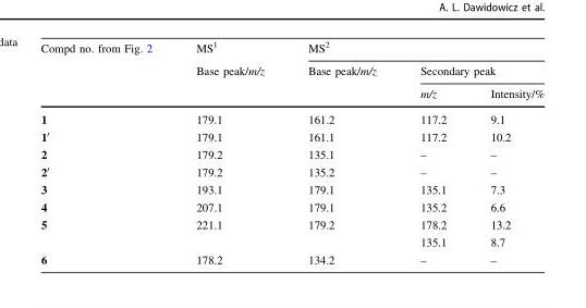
<table><thead><tr><td rowspan="3">Compd no. from Fig. 2</td><td rowspan="3">MS<sup>1</sup> Base peak/m/z</td><td colspan="3">MS<sup>2</sup></td></tr><tr><td rowspan="2">Base peak/m/z</td><td colspan="2">Secondary peak</td></tr><tr><td>m/z</td><td>Intensity/%</td></tr></thead><tbody><tr><td>1</td><td>179.1</td><td>161.2</td><td>117.2</td><td>9.1</td></tr><tr><td>1′</td><td>179.1</td><td>161.1</td><td>117.2</td><td>10.2</td></tr><tr><td>2</td><td>179.2</td><td>135.1</td><td>–</td><td>–</td></tr><tr><td>2′</td><td>179.2</td><td>135.2</td><td>–</td><td>–</td></tr><tr><td>3</td><td>193.1</td><td>179.1</td><td>135.1</td><td>7.3</td></tr><tr><td>4</td><td>207.1</td><td>179.1</td><td>135.2</td><td>6.6</td></tr><tr><td>5</td><td>221.1</td><td>179.2</td><td>178.2 135.1</td><td>13.2 8.7</td></tr><tr><td>6</td><td>178.2</td><td>134.2</td><td>–</td><td>–</td></tr></tbody></table>